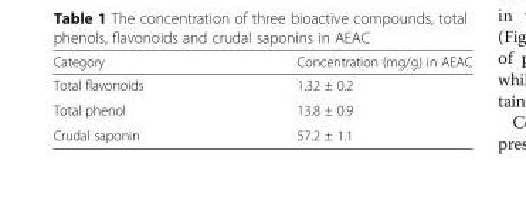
<table><thead><tr><td>Category</td><td>Concentration (mg/g) in AEAC</td></tr></thead><tbody><tr><td>Total flavonoids</td><td>1.32 ± 0.2</td></tr><tr><td>Total phenol</td><td>13.8 ± 0.9</td></tr><tr><td>Crudal saponin</td><td>57.2 ± 1.1</td></tr></tbody></table>